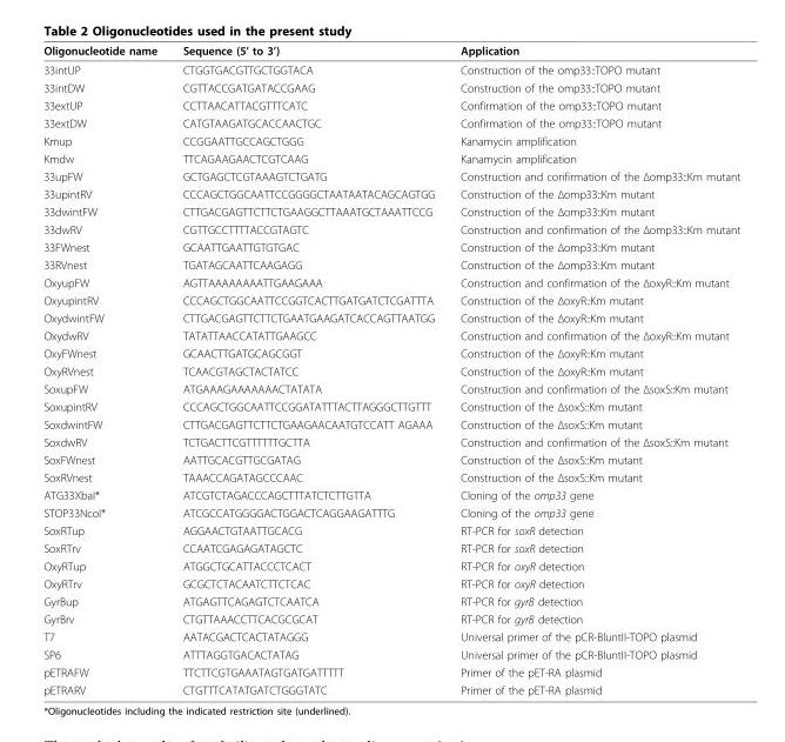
<table><thead><tr><td>Oligonucleotide name</td><td>Sequence (5’ to 3’)</td><td>Application</td></tr></thead><tbody><tr><td>33intUP</td><td>CTGGTGACGTTGCTGGTACA</td><td>Construction of the omp33::TOPO mutant</td></tr><tr><td>33intDW</td><td>CGTTACCGATGATACCGAAG</td><td>Construction of the omp33::TOPO mutant</td></tr><tr><td>33extUP</td><td>CCTTAACATTACGTTTCATC</td><td>Confirmation of the omp33::TOPO mutant</td></tr><tr><td>33extDW</td><td>CATGTAAGATGCACCAACTGC</td><td>Confirmation of the omp33::TOPO mutant</td></tr><tr><td>Kmup</td><td>CCGGAATTGCCAGCTGGG</td><td>Kanamycin amplification</td></tr><tr><td>Kmdw</td><td>TTCAGAAGAACTCGTCAAG</td><td>Kanamycin amplification</td></tr><tr><td>33upFW</td><td>GCTGAGCTCGTAAAGTCTGATG</td><td>Construction and confirmation of the Δomp33::Km mutant</td></tr><tr><td>33upintRV</td><td>CCCAGCTGGCAATTCCGGGGCTAATAATACAGCAGTGG</td><td>Construction of the Δomp33::Km mutant</td></tr><tr><td>33dwintFW</td><td>CTTGACGAGTTCTTCTGAAGGCTTAAATGCTAAATTCCG</td><td>Construction of the Δomp33::Km mutant</td></tr><tr><td>33dwRV</td><td>CGTTGCCTTTTACCGTAGTC</td><td>Construction and confirmation of the Δomp33::Km mutant</td></tr><tr><td>33FWnest</td><td>GCAATTGAATTGTGTGAC</td><td>Construction of the Δomp33::Km mutant</td></tr><tr><td>33RVnest</td><td>TGATAGCAATTCAAGAGG</td><td>Construction of the Δomp33::Km mutant</td></tr><tr><td>OxyupFW</td><td>AGTTAAAAAAAATTGAAGAAA</td><td>Construction and confirmation of the ΔoxyR::Km mutant</td></tr><tr><td>OxyupintRV</td><td>CCCAGCTGGCAATTCCGGTCACTTGATGATCTCGATTTA</td><td>Construction of the ΔoxyR::Km mutant</td></tr><tr><td>OxydwintFW</td><td>CTTGACGAGTTCTTCTGAATGAAGATCACCAGTTAATGG</td><td>Construction of the ΔoxyR::Km mutant</td></tr><tr><td>OxydwRV</td><td>TATATTAACCATATTGAAGCC</td><td>Construction and confirmation of the ΔoxyR::Km mutant</td></tr><tr><td>OxyFWnest</td><td>GCAACTTGATGCAGCGGT</td><td>Construction of the ΔoxyR::Km mutant</td></tr><tr><td>OxyRVnest</td><td>TCAACGTAGCTACTATCC</td><td>Construction of the ΔoxyR::Km mutant</td></tr><tr><td>SoxupFW</td><td>ATGAAAGAAAAAAACTATATA</td><td>Construction and confirmation of the ΔsoxS::Km mutant</td></tr><tr><td>SoxupintRV</td><td>CCCAGCTGGCAATTCCGGATATTTACTTAGGGCTTGTTT</td><td>Construction of the ΔsoxS::Km mutant</td></tr><tr><td>SoxdwintFW</td><td>CTTGACGAGTTCTTCTGAAGAACAATGTCCATT AGAAA</td><td>Construction of the ΔsoxS::Km mutant</td></tr><tr><td>SoxdwRV</td><td>TCTGACTTCGTTTTTTGCTTA</td><td>Construction and confirmation of the ΔsoxS::Km mutant</td></tr><tr><td>SoxFWnest</td><td>AATTGCACGTTGCGATAG</td><td>Construction of the ΔsoxS::Km mutant</td></tr><tr><td>SoxRVnest</td><td>TAAACCAGATAGCCCAAC</td><td>Construction of the ΔsoxS::Km mutant</td></tr><tr><td>ATG33XbaI*</td><td>ATCGTCTAGACCCAGCTTTATCTCTTGTTA</td><td>Cloning of the omp33 gene</td></tr><tr><td>STOP33NcoI*</td><td>ATCGCCATGGGGACTGGACTCAGGAAGATTTG</td><td>Cloning of the omp33 gene</td></tr><tr><td>SoxRTup</td><td>AGGAACTGTAATTGCACG</td><td>RT-PCR for soxR detection</td></tr><tr><td>SoxRTrv</td><td>CCAATCGAGAGATAGCTC</td><td>RT-PCR for soxR detection</td></tr><tr><td>OxyRTup</td><td>ATGGCTGCATTACCCTCACT</td><td>RT-PCR for oxyR detection</td></tr><tr><td>OxyRTrv</td><td>GCGCTCTACAATCTTCTCAC</td><td>RT-PCR for oxyR detection</td></tr><tr><td>GyrBup</td><td>ATGAGTTCAGAGTCTCAATCA</td><td>RT-PCR for gyrB detection</td></tr><tr><td>GyrBrv</td><td>CTGTTAAACCTTCACGCGCAT</td><td>RT-PCR for gyrB detection</td></tr><tr><td>T7</td><td>AATACGACTCACTATAGGG</td><td>Universal primer of the pCR-BluntII-TOPO plasmid</td></tr><tr><td>SP6</td><td>ATTTAGGTGACACTATAG</td><td>Universal primer of the pCR-BluntII-TOPO plasmid</td></tr><tr><td>pETRAFW</td><td>TTCTTCGTGAAATAGTGATGATTTTT</td><td>Primer of the pET-RA plasmid</td></tr><tr><td>pETRARV</td><td>CTGTTTCATATGATCTGGGTATC</td><td>Primer of the pET-RA plasmid</td></tr></tbody></table>